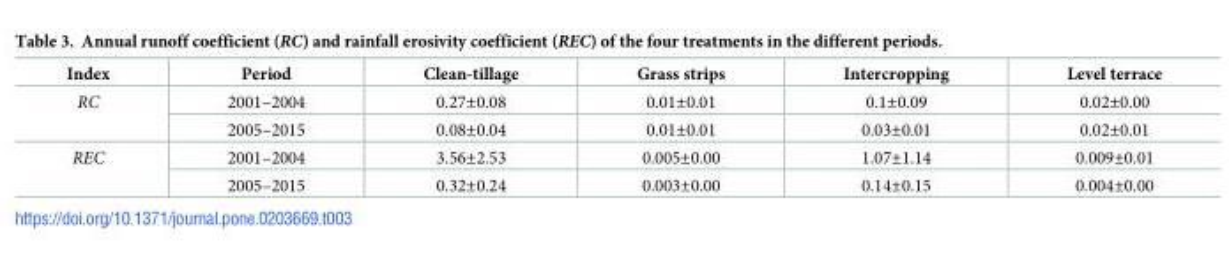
<table><thead><tr><td>Index</td><td>Period</td><td>Clean-tillage</td><td>Grass strips</td><td>Intercropping</td><td>Level terrace</td></tr></thead><tbody><tr><td rowspan="2">RC</td><td>2001–2004</td><td>0.27±0.08</td><td>0.01±0.01</td><td>0.1±0.09</td><td>0.02±0.00</td></tr><tr><td>2005–2015</td><td>0.08±0.04</td><td>0.01±0.01</td><td>0.03±0.01</td><td>0.02±0.01</td></tr><tr><td rowspan="2">REC</td><td>2001–2004</td><td>3.56±2.53</td><td>0.005±0.00</td><td>1.07±1.14</td><td>0.009±0.01</td></tr><tr><td>2005–2015</td><td>0.32±0.24</td><td>0.003±0.00</td><td>0.14±0.15</td><td>0.004±0.00</td></tr></tbody></table>